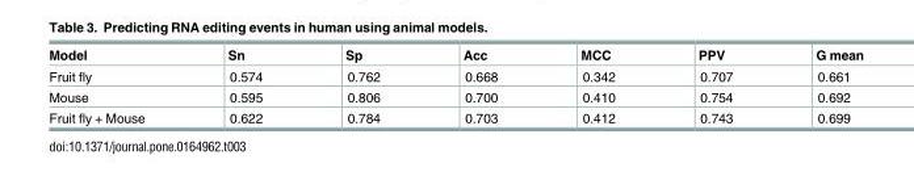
<table><thead><tr><td>Model</td><td>Sn</td><td>Sp</td><td>Acc</td><td>MCC</td><td>PPV</td><td>G mean</td></tr></thead><tbody><tr><td>Fruit fly</td><td>0.574</td><td>0.762</td><td>0.668</td><td>0.342</td><td>0.707</td><td>0.661</td></tr><tr><td>Mouse</td><td>0.595</td><td>0.806</td><td>0.700</td><td>0.410</td><td>0.754</td><td>0.692</td></tr><tr><td>Fruit fly + Mouse</td><td>0.622</td><td>0.784</td><td>0.703</td><td>0.412</td><td>0.743</td><td>0.699</td></tr></tbody></table>